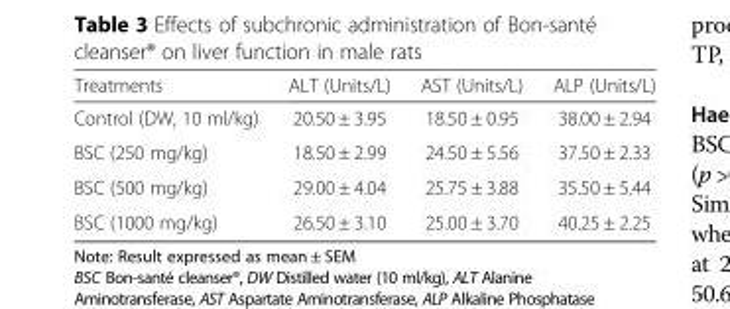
<table><thead><tr><td>Treatments</td><td>ALT (Units/L)</td><td>AST (Units/L)</td><td>ALP (Units/L)</td></tr></thead><tbody><tr><td>Control (DW, 10 ml/kg)</td><td>20.50 ± 3.95</td><td>18.50 ± 0.95</td><td>38.00 ± 2.94</td></tr><tr><td>BSC (250 mg/kg)</td><td>18.50 ± 2.99</td><td>24.50 ± 5.56</td><td>37.50 ± 2.33</td></tr><tr><td>BSC (500 mg/kg)</td><td>29.00 ± 4.04</td><td>25.75 ± 3.88</td><td>35.50 ± 5.44</td></tr><tr><td>BSC (1000 mg/kg)</td><td>26.50 ± 3.10</td><td>25.00 ± 3.70</td><td>40.25 ± 2.25</td></tr></tbody></table>